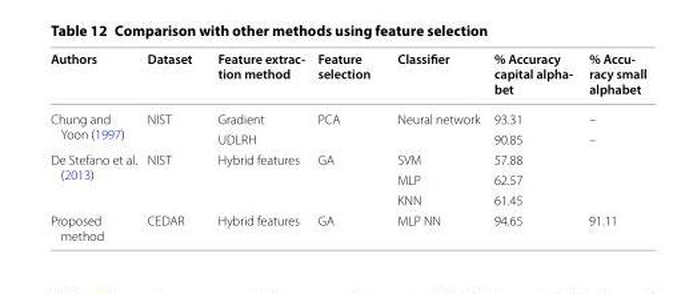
<table><thead><tr><td>Authors</td><td>Dataset</td><td>Feature extrac- tion method</td><td>Feature selection</td><td>Classifier</td><td>% Accuracy capital alpha- bet</td><td>% Accu- racy small alphabet</td></tr></thead><tbody><tr><td rowspan="2">Chung and Yoon (1997)</td><td rowspan="2">NIST</td><td>Gradient</td><td rowspan="2">PCA</td><td rowspan="2">Neural network</td><td>93.31</td><td>–</td></tr><tr><td>UDLRH</td><td>90.85</td><td>–</td></tr><tr><td rowspan="3">De Stefano et al. (2013)</td><td rowspan="3">NIST</td><td rowspan="3">Hybrid features</td><td rowspan="3">GA</td><td>SVM</td><td>57.88</td><td></td></tr><tr><td>MLP</td><td>62.57</td><td></td></tr><tr><td>KNN</td><td>61.45</td><td></td></tr><tr><td>Proposed method</td><td>CEDAR</td><td>Hybrid features</td><td>GA</td><td>MLP NN</td><td>94.65</td><td>91.11</td></tr></tbody></table>